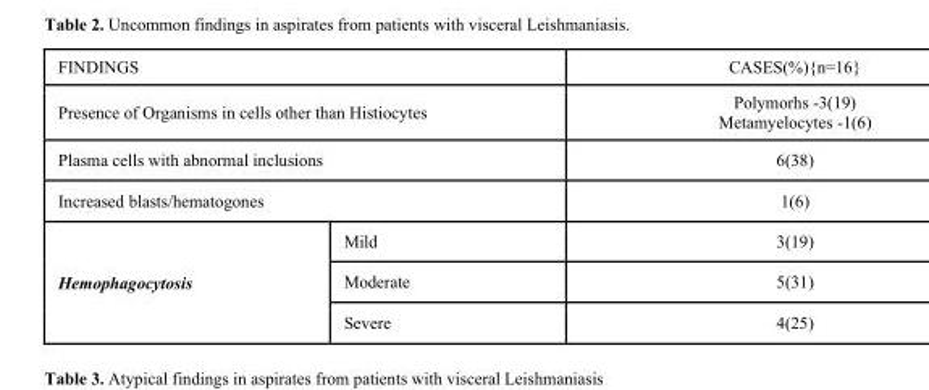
<table><thead><tr><td colspan="2">FINDINGS</td><td>CASES(%){n=16}</td></tr></thead><tbody><tr><td colspan="2">Presence of Organisms in cells other than Histiocytes</td><td>Polymorhs -3(19) Metamyelocytes -1(6)</td></tr><tr><td colspan="2">Plasma cells with abnormal inclusions</td><td>6(38)</td></tr><tr><td colspan="2">Increased blasts/hematogones</td><td>1(6)</td></tr><tr><td rowspan="3">Hemophagocytosis</td><td>Mild</td><td>3(19)</td></tr><tr><td>Moderate</td><td>5(31)</td></tr><tr><td>Severe</td><td>4(25)</td></tr></tbody></table>